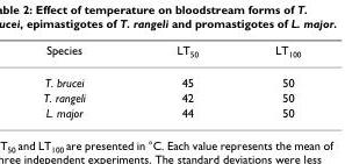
<table><thead><tr><td>Species</td><td>LT<sub>50</sub></td><td>LT<sub>100</sub></td></tr></thead><tbody><tr><td>T. brucei</td><td>45</td><td>50</td></tr><tr><td>T. rangeli</td><td>42</td><td>50</td></tr><tr><td>L. major</td><td>44</td><td>50</td></tr></tbody></table>